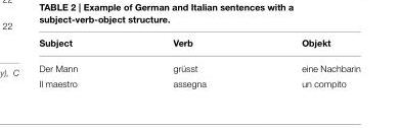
<table><thead><tr><td>Subject</td><td>Verb</td><td>Objekt</td></tr></thead><tbody><tr><td>Der Mann</td><td>grüsst</td><td>eine Nachbarin</td></tr><tr><td>Il maestro</td><td>assegna</td><td>un compito</td></tr></tbody></table>